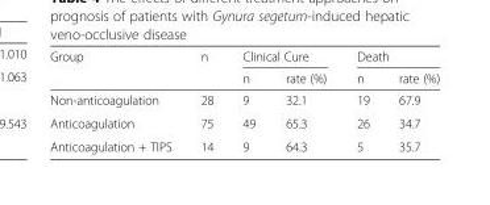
<table><thead><tr><td rowspan="2">Group</td><td rowspan="2">n</td><td colspan="2">Clinical Cure</td><td colspan="2">Death</td></tr><tr><td>n</td><td>rate (%)</td><td>n</td><td>rate (%)</td></tr></thead><tbody><tr><td>Non-anticoagulation</td><td>28</td><td>9</td><td>32.1</td><td>19</td><td>67.9</td></tr><tr><td>Anticoagulation</td><td>75</td><td>49</td><td>65.3</td><td>26</td><td>34.7</td></tr><tr><td>Anticoagulation + TIPS</td><td>14</td><td>9</td><td>64.3</td><td>5</td><td>35.7</td></tr></tbody></table>